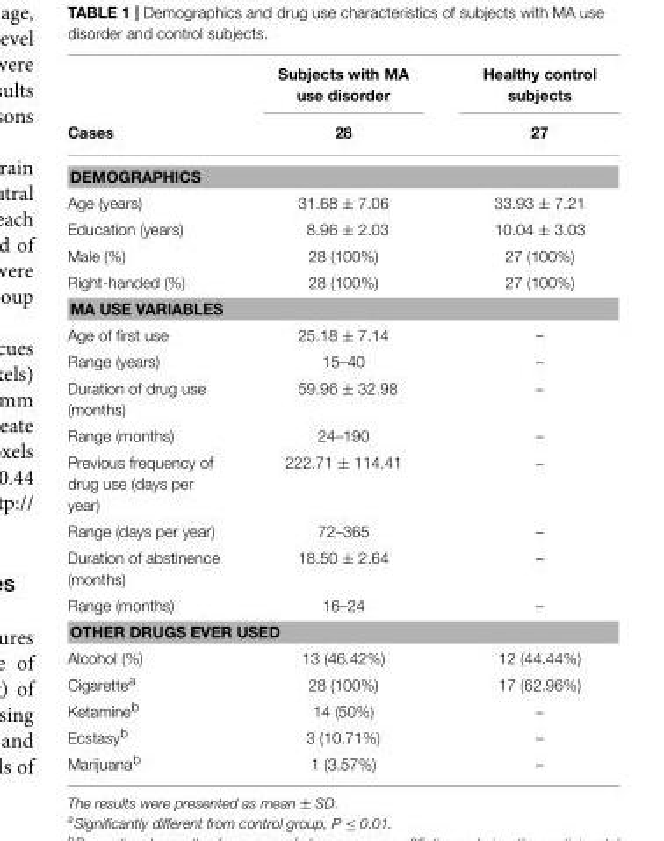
<table><thead><tr><td rowspan="2">Cases</td><td rowspan="2">Subjects with MA use disorder 28</td><td rowspan="2">Healthy control subjects 27</td></tr><tr></tr></thead><tbody><tr><td colspan="3">DEMOGRAPHICS</td></tr><tr><td>Age (years)</td><td>31.68 ± 7.06</td><td>33.93 ± 7.21</td></tr><tr><td>Education (years)</td><td>8.96 ± 2.03</td><td>10.04 ± 3.03</td></tr><tr><td>Male (%)</td><td>28 (100%)</td><td>27 (100%)</td></tr><tr><td>Right-handed (%)</td><td>28 (100%)</td><td>27 (100%)</td></tr><tr><td colspan="3">MA USE VARIABLES</td></tr><tr><td>Age of first use</td><td>25.18 ± 7.14</td><td>–</td></tr><tr><td>Range (years)</td><td>15–40</td><td>–</td></tr><tr><td>Duration of drug use (months)</td><td>59.96 ± 32.98</td><td>–</td></tr><tr><td>Range (months)</td><td>24–190</td><td>–</td></tr><tr><td>Previous frequency of drug use (days per year)</td><td>222.71 ± 114.41</td><td>–</td></tr><tr><td>Range (days per year)</td><td>72–365</td><td>–</td></tr><tr><td>Duration of abstinence (months)</td><td>18.50 ± 2.64</td><td>–</td></tr><tr><td>Range (months)</td><td>16–24</td><td>–</td></tr><tr><td colspan="3">OTHER DRUGS EVER USED</td></tr><tr><td>Alcohol (%)</td><td>13 (46.42%)</td><td>12 (44.44%)</td></tr><tr><td>Cigarette<sup>a</sup></td><td>28 (100%)</td><td>17 (62.96%)</td></tr><tr><td>Ketamine<sup>b</sup></td><td>14 (50%)</td><td>–</td></tr><tr><td>Ecstasy<sup>b</sup></td><td>3 (10.71%)</td><td>–</td></tr><tr><td>Marijuana<sup>b</sup></td><td>1 (3.57%)</td><td>–</td></tr></tbody></table>